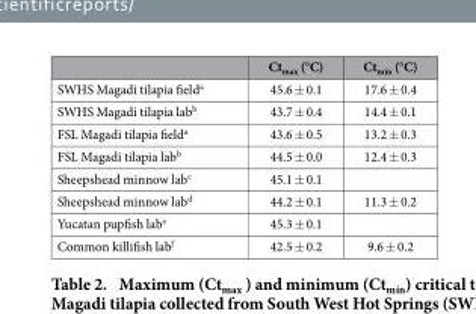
<table><thead><tr><td></td><td>Ct<sub>max</sub> (°C)</td><td>Ct<sub>min</sub> (°C)</td></tr></thead><tbody><tr><td>SWHS Magadi tilapia field<sup>a</sup></td><td>45.6 ± 0.1</td><td>17.6 ± 0.4</td></tr><tr><td>SWHS Magadi tilapia lab<sup>b</sup></td><td>43.7 ± 0.4</td><td>14.4 ± 0.1</td></tr><tr><td>FSL Magadi tilapia field<sup>a</sup></td><td>43.6 ± 0.5</td><td>13.2 ± 0.3</td></tr><tr><td>FSL Magadi tilapia lab<sup>b</sup></td><td>44.5 ± 0.0</td><td>12.4 ± 0.3</td></tr><tr><td>Sheepshead minnow lab<sup>c</sup></td><td>45.1 ± 0.1</td><td></td></tr><tr><td>Sheepshead minnow lab<sup>d</sup></td><td>44.2 ± 0.1</td><td>11.3 ± 0.2</td></tr><tr><td>Yucatan pupfish lab<sup>e</sup></td><td>45.3 ± 0.1</td><td></td></tr><tr><td>Common killifish lab<sup>f</sup></td><td>42.5 ± 0.2</td><td>9.6 ± 0.2</td></tr></tbody></table>